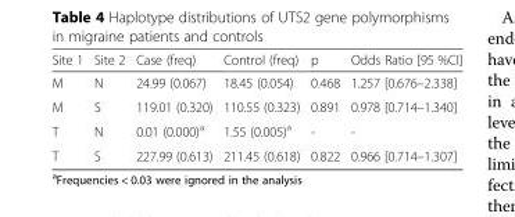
<table><thead><tr><td>Site 1</td><td>Site 2</td><td>Case (freq)</td><td>Control (freq)</td><td>p</td><td>Odds Ratio [95 %CI]</td></tr></thead><tbody><tr><td>M</td><td>N</td><td>24.99 (0.067)</td><td>18.45 (0.054)</td><td>0.468</td><td>1.257 [0.676–2.338]</td></tr><tr><td>M</td><td>S</td><td>119.01 (0.320)</td><td>110.55 (0.323)</td><td>0.891</td><td>0.978 [0.714–1.340]</td></tr><tr><td>T</td><td>N</td><td>0.01 (0.000)<sup>a</sup></td><td>1.55 (0.005)<sup>a</sup></td><td>-</td><td>-</td></tr><tr><td>T</td><td>S</td><td>227.99 (0.613)</td><td>211.45 (0.618)</td><td>0.822</td><td>0.966 [0.714–1.307]</td></tr></tbody></table>